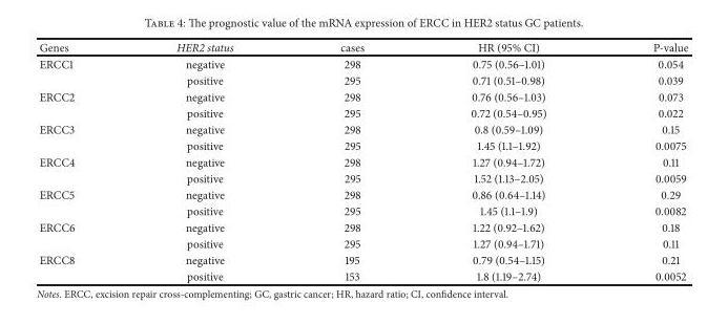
<table><thead><tr><td>Genes</td><td>HER2 status</td><td>cases</td><td>HR (95% CI)</td><td>P-value</td></tr></thead><tbody><tr><td rowspan="2">ERCC1</td><td>negative</td><td>298</td><td>0.75 (0.56–1.01)</td><td>0.054</td></tr><tr><td>positive</td><td>295</td><td>0.71 (0.51–0.98)</td><td>0.039</td></tr><tr><td rowspan="2">ERCC2</td><td>negative</td><td>298</td><td>0.76 (0.56–1.03)</td><td>0.073</td></tr><tr><td>positive</td><td>295</td><td>0.72 (0.54–0.95)</td><td>0.022</td></tr><tr><td rowspan="2">ERCC3</td><td>negative</td><td>298</td><td>0.8 (0.59–1.09)</td><td>0.15</td></tr><tr><td>positive</td><td>295</td><td>1.45 (1.1–1.92)</td><td>0.0075</td></tr><tr><td rowspan="2">ERCC4</td><td>negative</td><td>298</td><td>1.27 (0.94–1.72)</td><td>0.11</td></tr><tr><td>positive</td><td>295</td><td>1.52 (1.13–2.05)</td><td>0.0059</td></tr><tr><td rowspan="2">ERCC5</td><td>negative</td><td>298</td><td>0.86 (0.64–1.14)</td><td>0.29</td></tr><tr><td>positive</td><td>295</td><td>1.45 (1.1–1.9)</td><td>0.0082</td></tr><tr><td rowspan="2">ERCC6</td><td>negative</td><td>298</td><td>1.22 (0.92–1.62)</td><td>0.18</td></tr><tr><td>positive</td><td>295</td><td>1.27 (0.94–1.71)</td><td>0.11</td></tr><tr><td rowspan="2">ERCC8</td><td>negative</td><td>195</td><td>0.79 (0.54–1.15)</td><td>0.21</td></tr><tr><td>positive</td><td>153</td><td>1.8 (1.19–2.74)</td><td>0.0052</td></tr></tbody></table>